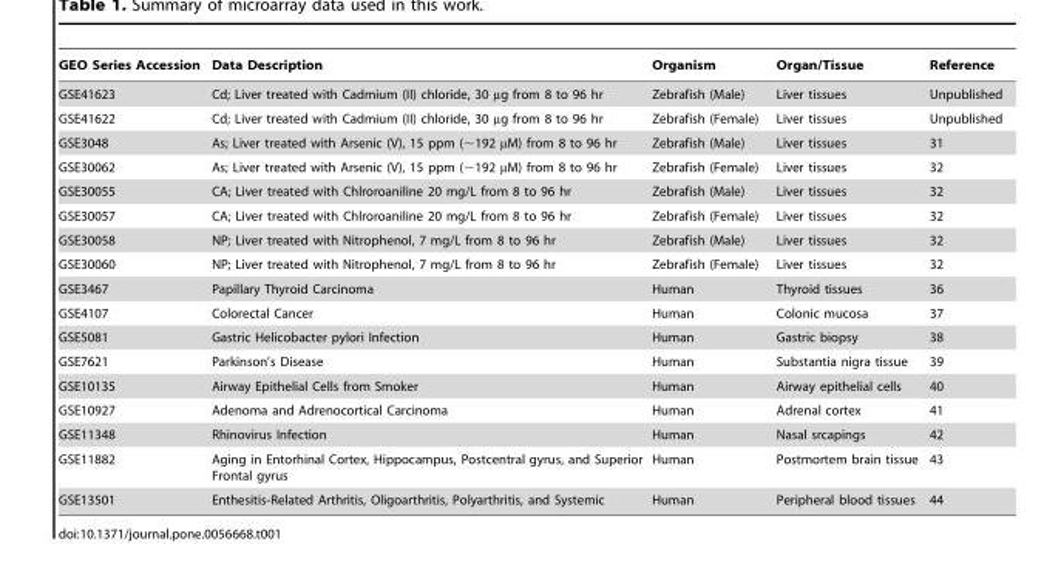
<table><thead><tr><td>GEO Series Accession</td><td>Data Description</td><td>Organism</td><td>Organ/Tissue</td><td>Reference</td></tr></thead><tbody><tr><td>GSE41623</td><td>Cd; Liver treated with Cadmium (II) chloride, 30 µg from 8 to 96 hr</td><td>Zebrafish (Male)</td><td>Liver tissues</td><td>Unpublished</td></tr><tr><td>GSE41622</td><td>Cd; Liver treated with Cadmium (II) chloride, 30 µg from 8 to 96 hr</td><td>Zebrafish (Female)</td><td>Liver tissues</td><td>Unpublished</td></tr><tr><td>GSE3048</td><td>As; Liver treated with Arsenic (V), 15 ppm (∼192 µM) from 8 to 96 hr</td><td>Zebrafish (Male)</td><td>Liver tissues</td><td>31</td></tr><tr><td>GSE30062</td><td>As; Liver treated with Arsenic (V), 15 ppm (∼192 µM) from 8 to 96 hr</td><td>Zebrafish (Female)</td><td>Liver tissues</td><td>32</td></tr><tr><td>GSE30055</td><td>CA; Liver treated with Chlroroaniline 20 mg/L from 8 to 96 hr</td><td>Zebrafish (Male)</td><td>Liver tissues</td><td>32</td></tr><tr><td>GSE30057</td><td>CA; Liver treated with Chlroroaniline 20 mg/L from 8 to 96 hr</td><td>Zebrafish (Female)</td><td>Liver tissues</td><td>32</td></tr><tr><td>GSE30058</td><td>NP; Liver treated with Nitrophenol, 7 mg/L from 8 to 96 hr</td><td>Zebrafish (Male)</td><td>Liver tissues</td><td>32</td></tr><tr><td>GSE30060</td><td>NP; Liver treated with Nitrophenol, 7 mg/L from 8 to 96 hr</td><td>Zebrafish (Female)</td><td>Liver tissues</td><td>32</td></tr><tr><td>GSE3467</td><td>Papillary Thyroid Carcinoma</td><td>Human</td><td>Thyroid tissues</td><td>36</td></tr><tr><td>GSE4107</td><td>Colorectal Cancer</td><td>Human</td><td>Colonic mucosa</td><td>37</td></tr><tr><td>GSE5081</td><td>Gastric Helicobacter pylori Infection</td><td>Human</td><td>Gastric biopsy</td><td>38</td></tr><tr><td>GSE7621</td><td>Parkinson’s Disease</td><td>Human</td><td>Substantia nigra tissue</td><td>39</td></tr><tr><td>GSE10135</td><td>Airway Epithelial Cells from Smoker</td><td>Human</td><td>Airway epithelial cells</td><td>40</td></tr><tr><td>GSE10927</td><td>Adenoma and Adrenocortical Carcinoma</td><td>Human</td><td>Adrenal cortex</td><td>41</td></tr><tr><td>GSE11348</td><td>Rhinovirus Infection</td><td>Human</td><td>Nasal srcapings</td><td>42</td></tr><tr><td>GSE11882</td><td>Aging in Entorhinal Cortex, Hippocampus, Postcentral gyrus, and Superior Frontal gyrus</td><td>Human</td><td>Postmortem brain tissue</td><td>43</td></tr><tr><td>GSE13501</td><td>Enthesitis-Related Arthritis, Oligoarthritis, Polyarthritis, and Systemic</td><td>Human</td><td>Peripheral blood tissues</td><td>44</td></tr></tbody></table>